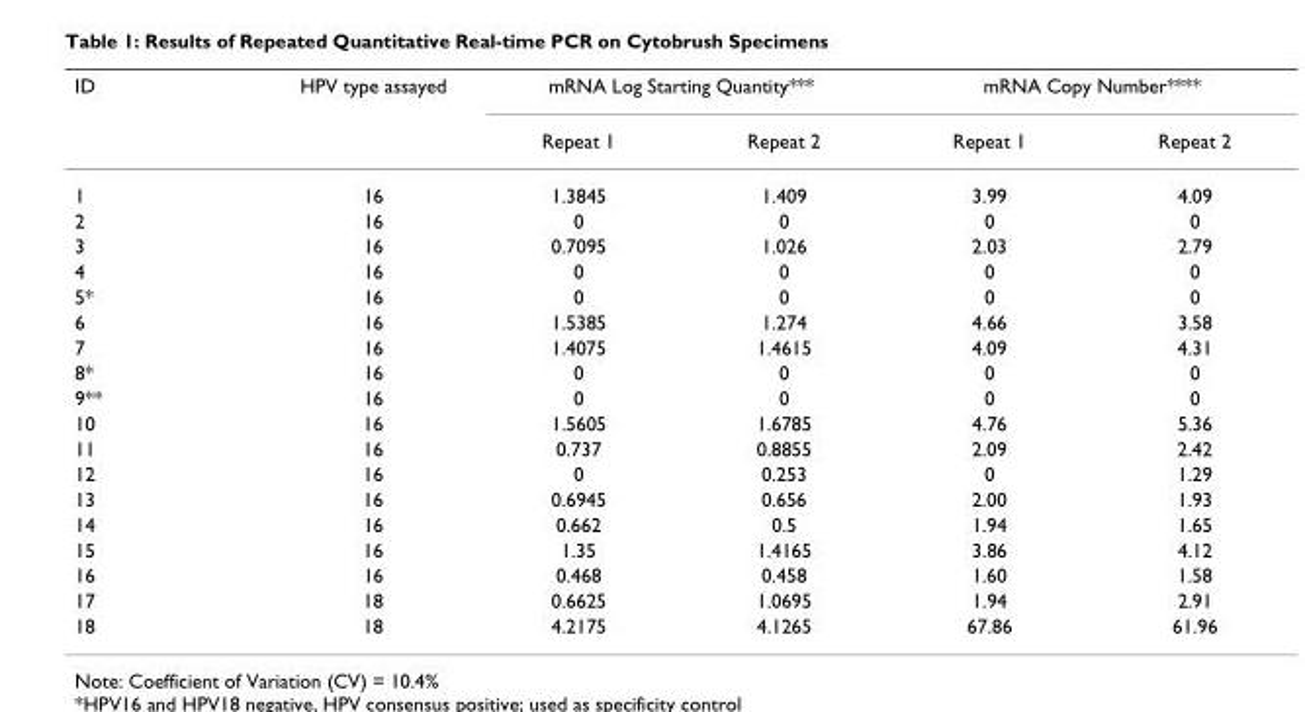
<table><thead><tr><td rowspan="2">ID</td><td rowspan="2">HPV type assayed</td><td colspan="2">mRNA Log Starting Quantity***</td><td colspan="2">mRNA Copy Number****</td></tr><tr><td>Repeat 1</td><td>Repeat 2</td><td>Repeat 1</td><td>Repeat 2</td></tr></thead><tbody><tr><td>1</td><td>16</td><td>1.3845</td><td>1.409</td><td>3.99</td><td>4.09</td></tr><tr><td>2</td><td>16</td><td>0</td><td>0</td><td>0</td><td>0</td></tr><tr><td>3</td><td>16</td><td>0.7095</td><td>1.026</td><td>2.03</td><td>2.79</td></tr><tr><td>4</td><td>16</td><td>0</td><td>0</td><td>0</td><td>0</td></tr><tr><td>5*</td><td>16</td><td>0</td><td>0</td><td>0</td><td>0</td></tr><tr><td>6</td><td>16</td><td>1.5385</td><td>1.274</td><td>4.66</td><td>3.58</td></tr><tr><td>7</td><td>16</td><td>1.4075</td><td>1.4615</td><td>4.09</td><td>4.31</td></tr><tr><td>8*</td><td>16</td><td>0</td><td>0</td><td>0</td><td>0</td></tr><tr><td>9**</td><td>16</td><td>0</td><td>0</td><td>0</td><td>0</td></tr><tr><td>10</td><td>16</td><td>1.5605</td><td>1.6785</td><td>4.76</td><td>5.36</td></tr><tr><td>11</td><td>16</td><td>0.737</td><td>0.8855</td><td>2.09</td><td>2.42</td></tr><tr><td>12</td><td>16</td><td>0</td><td>0.253</td><td>0</td><td>1.29</td></tr><tr><td>13</td><td>16</td><td>0.6945</td><td>0.656</td><td>2.00</td><td>1.93</td></tr><tr><td>14</td><td>16</td><td>0.662</td><td>0.5</td><td>1.94</td><td>1.65</td></tr><tr><td>15</td><td>16</td><td>1.35</td><td>1.4165</td><td>3.86</td><td>4.12</td></tr><tr><td>16</td><td>16</td><td>0.468</td><td>0.458</td><td>1.60</td><td>1.58</td></tr><tr><td>17</td><td>18</td><td>0.6625</td><td>1.0695</td><td>1.94</td><td>2.91</td></tr><tr><td>18</td><td>18</td><td>4.2175</td><td>4.1265</td><td>67.86</td><td>61.96</td></tr></tbody></table>